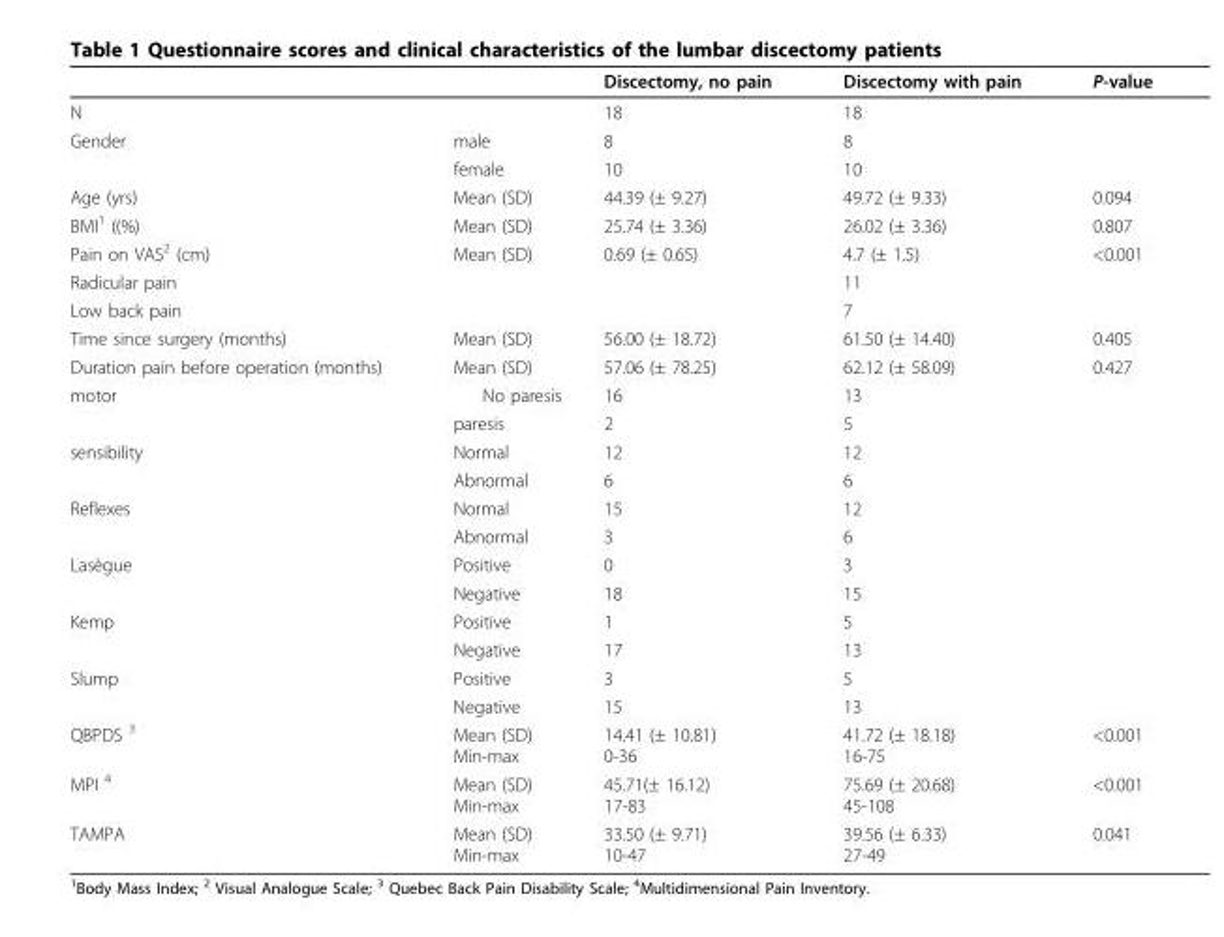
<table><thead><tr><td></td><td></td><td>Discectomy, no pain</td><td>Discectomy with pain</td><td>P-value</td></tr></thead><tbody><tr><td>N</td><td></td><td>18</td><td>18</td><td></td></tr><tr><td rowspan="2">Gender</td><td>male</td><td>8</td><td>8</td><td></td></tr><tr><td>female</td><td>10</td><td>10</td><td></td></tr><tr><td>Age (yrs)</td><td>Mean (SD)</td><td>44.39 (± 9.27)</td><td>49.72 (± 9.33)</td><td>0.094</td></tr><tr><td>BMI<sup>1</sup> ((%)</td><td>Mean (SD)</td><td>25.74 (± 3.36)</td><td>26.02 (± 3.36)</td><td>0.807</td></tr><tr><td>Pain on VAS<sup>2</sup> (cm)</td><td>Mean (SD)</td><td>0.69 (± 0.65)</td><td>4.7 (± 1.5)</td><td>&lt;0.001</td></tr><tr><td>Radicular pain</td><td></td><td></td><td>11</td><td></td></tr><tr><td>Low back pain</td><td></td><td></td><td>7</td><td></td></tr><tr><td>Time since surgery (months)</td><td>Mean (SD)</td><td>56.00 (± 18.72)</td><td>61.50 (± 14.40)</td><td>0.405</td></tr><tr><td>Duration pain before operation (months)</td><td>Mean (SD)</td><td>57.06 (± 78.25)</td><td>62.12 (± 58.09)</td><td>0.427</td></tr><tr><td rowspan="2">motor</td><td>No paresis</td><td>16</td><td>13</td><td></td></tr><tr><td>paresis</td><td>2</td><td>5</td><td></td></tr><tr><td rowspan="2">sensibility</td><td>Normal</td><td>12</td><td>12</td><td></td></tr><tr><td>Abnormal</td><td>6</td><td>6</td><td></td></tr><tr><td rowspan="2">Reflexes</td><td>Normal</td><td>15</td><td>12</td><td></td></tr><tr><td>Abnormal</td><td>3</td><td>6</td><td></td></tr><tr><td rowspan="2">Lasègue</td><td>Positive</td><td>0</td><td>3</td><td></td></tr><tr><td>Negative</td><td>18</td><td>15</td><td></td></tr><tr><td rowspan="2">Kemp</td><td>Positive</td><td>1</td><td>5</td><td></td></tr><tr><td>Negative</td><td>17</td><td>13</td><td></td></tr><tr><td rowspan="2">Slump</td><td>Positive</td><td>3</td><td>5</td><td></td></tr><tr><td>Negative</td><td>15</td><td>13</td><td></td></tr><tr><td>QBPDS <sup>3</sup></td><td>Mean (SD) Min-max</td><td>14.41 (± 10.81) 0-36</td><td>41.72 (± 18.18) 16-75</td><td>&lt;0.001</td></tr><tr><td>MPI <sup>4</sup></td><td>Mean (SD) Min-max</td><td>45.71(± 16.12) 17-83</td><td>75.69 (± 20.68) 45-108</td><td>&lt;0.001</td></tr><tr><td>TAMPA</td><td>Mean (SD) Min-max</td><td>33.50 (± 9.71) 10-47</td><td>39.56 (± 6.33) 27-49</td><td>0.041</td></tr></tbody></table>